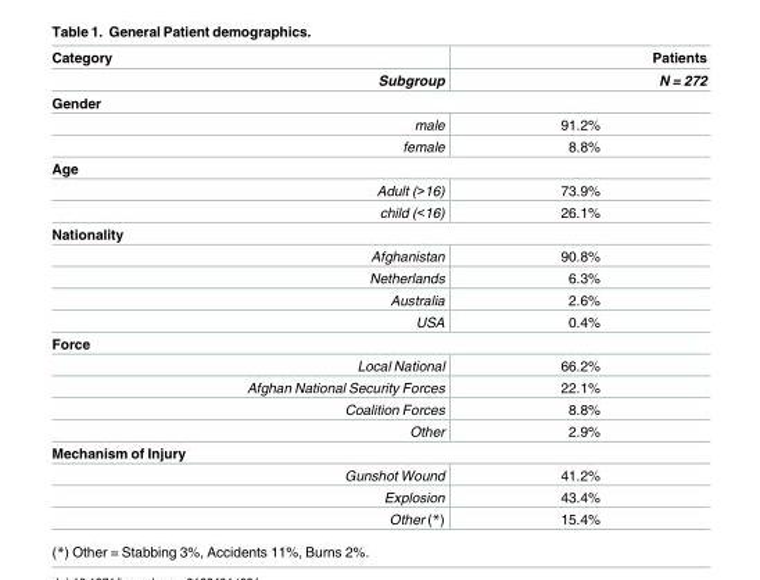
<table><thead><tr><td rowspan="2">Category Subgroup</td><td rowspan="2">Patients N = 272</td></tr><tr></tr></thead><tbody><tr><td colspan="2">Gender</td></tr><tr><td>male</td><td>91.2%</td></tr><tr><td>female</td><td>8.8%</td></tr><tr><td colspan="2">Age</td></tr><tr><td>Adult (&gt;16)</td><td>73.9%</td></tr><tr><td>child (&lt;16)</td><td>26.1%</td></tr><tr><td colspan="2">Nationality</td></tr><tr><td>Afghanistan</td><td>90.8%</td></tr><tr><td>Netherlands</td><td>6.3%</td></tr><tr><td>Australia</td><td>2.6%</td></tr><tr><td>USA</td><td>0.4%</td></tr><tr><td colspan="2">Force</td></tr><tr><td>Local National</td><td>66.2%</td></tr><tr><td>Afghan National Security Forces</td><td>22.1%</td></tr><tr><td>Coalition Forces</td><td>8.8%</td></tr><tr><td>Other</td><td>2.9%</td></tr><tr><td colspan="2">Mechanism of Injury</td></tr><tr><td>Gunshot Wound</td><td>41.2%</td></tr><tr><td>Explosion</td><td>43.4%</td></tr><tr><td>Other (*)</td><td>15.4%</td></tr></tbody></table>